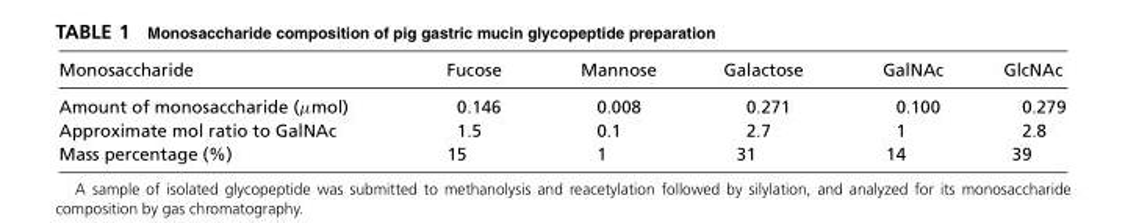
<table><thead><tr><td>Monosaccharide</td><td>Fucose</td><td>Mannose</td><td>Galactose</td><td>GalNAc</td><td>GlcNAc</td></tr></thead><tbody><tr><td>Amount of monosaccharide (µmol)</td><td>0.146</td><td>0.008</td><td>0.271</td><td>0.100</td><td>0.279</td></tr><tr><td>Approximate mol ratio to GalNAc</td><td>1.5</td><td>0.1</td><td>2.7</td><td>1</td><td>2.8</td></tr><tr><td>Mass percentage (%)</td><td>15</td><td>1</td><td>31</td><td>14</td><td>39</td></tr></tbody></table>